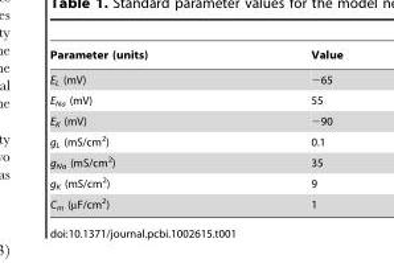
<table><thead><tr><td>Parameter (units)</td><td>Value</td></tr></thead><tbody><tr><td>E<sub>L</sub> (mV)</td><td>−65</td></tr><tr><td>E<sub>Na</sub> (mV)</td><td>55</td></tr><tr><td>E<sub>K</sub> (mV)</td><td>−90</td></tr><tr><td>g<sub>L</sub> (mS/cm<sup>2</sup>)</td><td>0.1</td></tr><tr><td>g<sub>Na</sub> (mS/cm<sup>2</sup>)</td><td>35</td></tr><tr><td>g<sub>K</sub> (mS/cm<sup>2</sup>)</td><td>9</td></tr><tr><td>C<sub>m</sub> (µF/cm<sup>2</sup>)</td><td>1</td></tr></tbody></table>